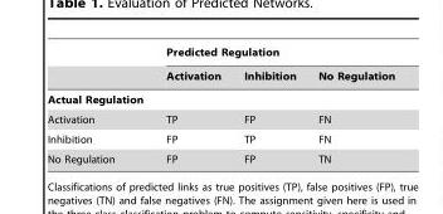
<table><thead><tr><td rowspan="2"></td><td colspan="3">Predicted Regulation</td></tr><tr><td>Activation</td><td>Inhibition</td><td>No Regulation</td></tr></thead><tbody><tr><td colspan="4">Actual Regulation</td></tr><tr><td>Activation</td><td>TP</td><td>FP</td><td>FN</td></tr><tr><td>Inhibition</td><td>FP</td><td>TP</td><td>FN</td></tr><tr><td>No Regulation</td><td>FP</td><td>FP</td><td>TN</td></tr></tbody></table>